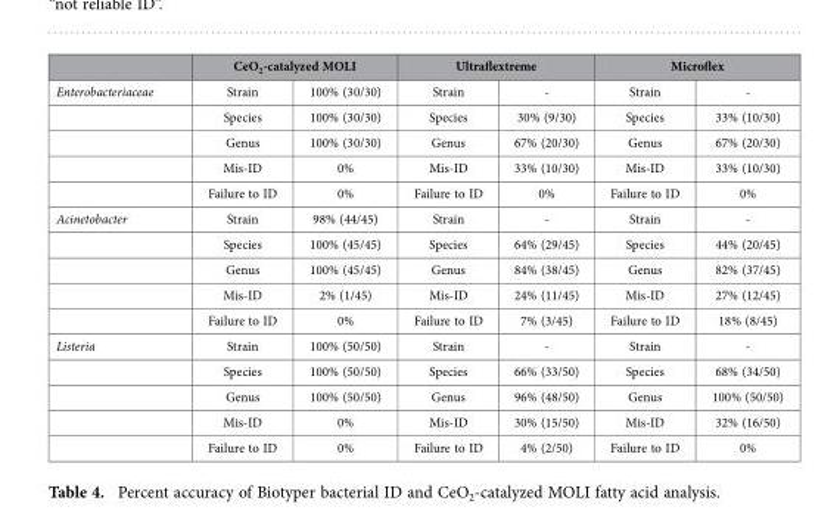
<table><thead><tr><td rowspan="2">Enterobacteriaceae</td><td colspan="2">CeO<sub>2</sub>-catalyzed MOLI</td><td colspan="2">Ultraflextreme</td><td colspan="2">Microflex</td></tr><tr><td>Strain</td><td>100% (30/30)</td><td>Strain</td><td>-</td><td>Strain</td><td>-</td></tr></thead><tbody><tr><td></td><td>Species</td><td>100% (30/30)</td><td>Species</td><td>30% (9/30)</td><td>Species</td><td>33% (10/30)</td></tr><tr><td></td><td>Genus</td><td>100% (30/30)</td><td>Genus</td><td>67% (20/30)</td><td>Genus</td><td>67% (20/30)</td></tr><tr><td></td><td>Mis-ID</td><td>0%</td><td>Mis-ID</td><td>33% (10/30)</td><td>Mis-ID</td><td>33% (10/30)</td></tr><tr><td></td><td>Failure to ID</td><td>0%</td><td>Failure to ID</td><td>0%</td><td>Failure to ID</td><td>0%</td></tr><tr><td rowspan="5">Acinetobacter</td><td>Strain</td><td>98% (44/45)</td><td>Strain</td><td>-</td><td>Strain</td><td>-</td></tr><tr><td>Species</td><td>100% (45/45)</td><td>Species</td><td>64% (29/45)</td><td>Species</td><td>44% (20/45)</td></tr><tr><td>Genus</td><td>100% (45/45)</td><td>Genus</td><td>84% (38/45)</td><td>Genus</td><td>82% (37/45)</td></tr><tr><td>Mis-ID</td><td>2% (1/45)</td><td>Mis-ID</td><td>24% (11/45)</td><td>Mis-ID</td><td>27% (12/45)</td></tr><tr><td>Failure to ID</td><td>0%</td><td>Failure to ID</td><td>7% (3/45)</td><td>Failure to ID</td><td>18% (8/45)</td></tr><tr><td rowspan="5">Listeria</td><td>Strain</td><td>100% (50/50)</td><td>Strain</td><td>-</td><td>Strain</td><td>-</td></tr><tr><td>Species</td><td>100% (50/50)</td><td>Species</td><td>66% (33/50)</td><td>Species</td><td>68% (34/50)</td></tr><tr><td>Genus</td><td>100% (50/50)</td><td>Genus</td><td>96% (48/50)</td><td>Genus</td><td>100% (50/50)</td></tr><tr><td>Mis-ID</td><td>0%</td><td>Mis-ID</td><td>30% (15/50)</td><td>Mis-ID</td><td>32% (16/50)</td></tr><tr><td>Failure to ID</td><td>0%</td><td>Failure to ID</td><td>4% (2/50)</td><td>Failure to ID</td><td>0%</td></tr></tbody></table>